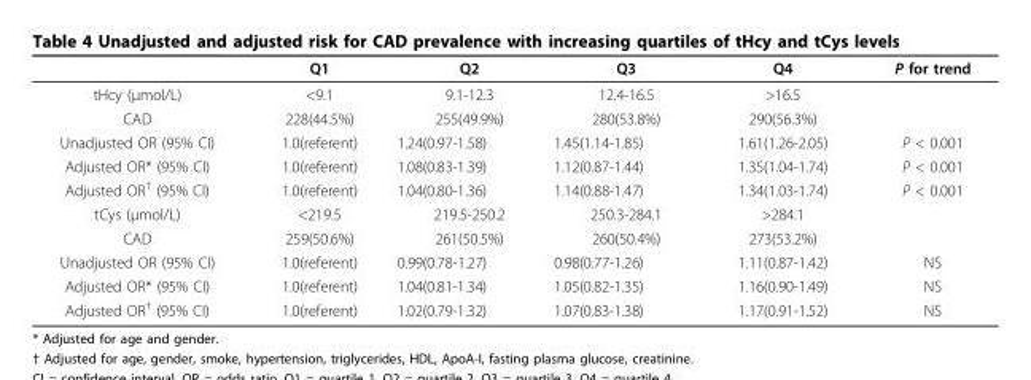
<table><thead><tr><td></td><td>Q1</td><td>Q2</td><td>Q3</td><td>Q4</td><td>P for trend</td></tr></thead><tbody><tr><td>tHcy (μmol/L)</td><td>&lt;9.1</td><td>9.1-12.3</td><td>12.4-16.5</td><td>&gt;16.5</td><td></td></tr><tr><td>CAD</td><td>228(44.5%)</td><td>255(49.9%)</td><td>280(53.8%)</td><td>290(56.3%)</td><td></td></tr><tr><td>Unadjusted OR (95% CI)</td><td>1.0(referent)</td><td>1.24(0.97-1.58)</td><td>1.45(1.14-1.85)</td><td>1.61(1.26-2.05)</td><td>P &lt; 0.001</td></tr><tr><td>Adjusted OR* (95% CI)</td><td>1.0(referent)</td><td>1.08(0.83-1.39)</td><td>1.12(0.87-1.44)</td><td>1.35(1.04-1.74)</td><td>P &lt; 0.001</td></tr><tr><td>Adjusted OR<sup>†</sup> (95% CI)</td><td>1.0(referent)</td><td>1.04(0.80-1.36)</td><td>1.14(0.88-1.47)</td><td>1.34(1.03-1.74)</td><td>P &lt; 0.001</td></tr><tr><td>tCys (μmol/L)</td><td>&lt;219.5</td><td>219.5-250.2</td><td>250.3-284.1</td><td>&gt;284.1</td><td></td></tr><tr><td>CAD</td><td>259(50.6%)</td><td>261(50.5%)</td><td>260(50.4%)</td><td>273(53.2%)</td><td></td></tr><tr><td>Unadjusted OR (95% CI)</td><td>1.0(referent)</td><td>0.99(0.78-1.27)</td><td>0.98(0.77-1.26)</td><td>1.11(0.87-1.42)</td><td>NS</td></tr><tr><td>Adjusted OR* (95% CI)</td><td>1.0(referent)</td><td>1.04(0.81-1.34)</td><td>1.05(0.82-1.35)</td><td>1.16(0.90-1.49)</td><td>NS</td></tr><tr><td>Adjusted OR<sup>†</sup> (95% CI)</td><td>1.0(referent)</td><td>1.02(0.79-1.32)</td><td>1.07(0.83-1.38)</td><td>1.17(0.91-1.52)</td><td>NS</td></tr></tbody></table>